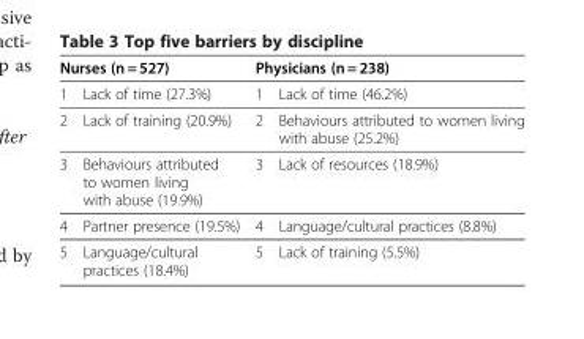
<table><thead><tr><td>Nurses (n = 527)</td><td>Physicians (n = 238)</td></tr></thead><tbody><tr><td>1 Lack of time (27.3%)</td><td>1 Lack of time (46.2%)</td></tr><tr><td>2 Lack of training (20.9%)</td><td>2 Behaviours attributed to women living with abuse (25.2%)</td></tr><tr><td>3 Behaviours attributed to women living with abuse (19.9%)</td><td>3 Lack of resources (18.9%)</td></tr><tr><td>4 Partner presence (19.5%)</td><td>4 Language/cultural practices (8.8%)</td></tr><tr><td>5 Language/cultural practices (18.4%)</td><td>5 Lack of training (5.5%)</td></tr></tbody></table>